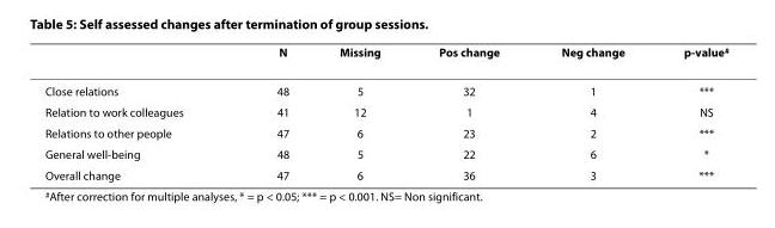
<table><thead><tr><td></td><td>N</td><td>Missing</td><td>Pos change</td><td>Neg change</td><td>p-value<sup>#</sup></td></tr></thead><tbody><tr><td>Close relations</td><td>48</td><td>5</td><td>32</td><td>1</td><td>***</td></tr><tr><td>Relation to work colleagues</td><td>41</td><td>12</td><td>1</td><td>4</td><td>NS</td></tr><tr><td>Relations to other people</td><td>47</td><td>6</td><td>23</td><td>2</td><td>***</td></tr><tr><td>General well-being</td><td>48</td><td>5</td><td>22</td><td>6</td><td>*</td></tr><tr><td>Overall change</td><td>47</td><td>6</td><td>36</td><td>3</td><td>***</td></tr></tbody></table>